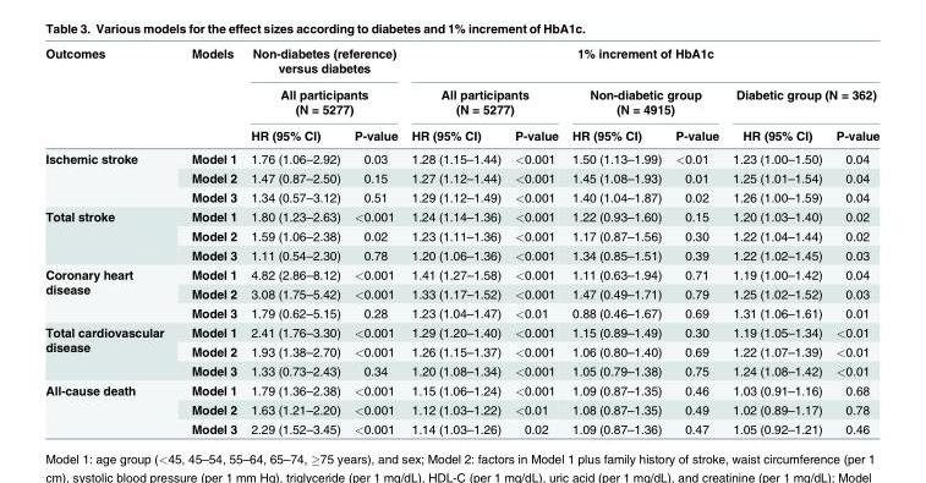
<table><thead><tr><td rowspan="3">Outcomes</td><td rowspan="3">Models</td><td rowspan="2" colspan="2">Non-diabetes (reference) versus diabetes All participants (N = 5277)</td><td colspan="6">1% increment of HbA1c</td></tr><tr><td colspan="2">All participants (N = 5277)</td><td colspan="2">Non-diabetic group (N = 4915)</td><td colspan="2">Diabetic group (N = 362)</td></tr><tr><td>HR (95% CI)</td><td>P-value</td><td>HR (95% CI)</td><td>P-value</td><td>HR (95% CI)</td><td>P-value</td><td>HR (95% CI)</td><td>P-value</td></tr></thead><tbody><tr><td rowspan="3">Ischemic stroke</td><td>Model 1</td><td>1.76 (1.06–2.92)</td><td>0.03</td><td>1.28 (1.15–1.44)</td><td>&lt;0.001</td><td>1.50 (1.13–1.99)</td><td>&lt;0.01</td><td>1.23 (1.00–1.50)</td><td>0.04</td></tr><tr><td>Model 2</td><td>1.47 (0.87–2.50)</td><td>0.15</td><td>1.27 (1.12–1.44)</td><td>&lt;0.001</td><td>1.45 (1.08–1.93)</td><td>0.01</td><td>1.25 (1.01–1.54)</td><td>0.04</td></tr><tr><td>Model 3</td><td>1.34 (0.57–3.12)</td><td>0.51</td><td>1.29 (1.12–1.49)</td><td>&lt;0.001</td><td>1.40 (1.04–1.87)</td><td>0.02</td><td>1.26 (1.00–1.59)</td><td>0.04</td></tr><tr><td rowspan="3">Total stroke</td><td>Model 1</td><td>1.80 (1.23–2.63)</td><td>&lt;0.001</td><td>1.24 (1.14–1.36)</td><td>&lt;0.001</td><td>1.22 (0.93–1.60)</td><td>0.15</td><td>1.20 (1.03–1.40)</td><td>0.02</td></tr><tr><td>Model 2</td><td>1.59 (1.06–2.38)</td><td>0.02</td><td>1.23 (1.11–1.36)</td><td>&lt;0.001</td><td>1.17 (0.87–1.56)</td><td>0.30</td><td>1.22 (1.04–1.44)</td><td>0.02</td></tr><tr><td>Model 3</td><td>1.11 (0.54–2.30)</td><td>0.78</td><td>1.20 (1.06–1.36)</td><td>&lt;0.001</td><td>1.34 (0.85–1.51)</td><td>0.39</td><td>1.22 (1.02–1.45)</td><td>0.03</td></tr><tr><td rowspan="3">Coronary heart disease</td><td>Model 1</td><td>4.82 (2.86–8.12)</td><td>&lt;0.001</td><td>1.41 (1.27–1.58)</td><td>&lt;0.001</td><td>1.11 (0.63–1.94)</td><td>0.71</td><td>1.19 (1.00–1.42)</td><td>0.04</td></tr><tr><td>Model 2</td><td>3.08 (1.75–5.42)</td><td>&lt;0.001</td><td>1.33 (1.17–1.52)</td><td>&lt;0.001</td><td>1.47 (0.49–1.71)</td><td>0.79</td><td>1.25 (1.02–1.52)</td><td>0.03</td></tr><tr><td>Model 3</td><td>1.79 (0.62–5.15)</td><td>0.28</td><td>1.23 (1.04–1.47)</td><td>&lt;0.01</td><td>0.88 (0.46–1.67)</td><td>0.69</td><td>1.31 (1.06–1.61)</td><td>0.01</td></tr><tr><td rowspan="3">Total cardiovascular disease</td><td>Model 1</td><td>2.41 (1.76–3.30)</td><td>&lt;0.001</td><td>1.29 (1.20–1.40)</td><td>&lt;0.001</td><td>1.15 (0.89–1.49)</td><td>0.30</td><td>1.19 (1.05–1.34)</td><td>&lt;0.01</td></tr><tr><td>Model 2</td><td>1.93 (1.38–2.70)</td><td>&lt;0.001</td><td>1.26 (1.15–1.37)</td><td>&lt;0.001</td><td>1.06 (0.80–1.40)</td><td>0.69</td><td>1.22 (1.07–1.39)</td><td>&lt;0.01</td></tr><tr><td>Model 3</td><td>1.33 (0.73–2.43)</td><td>0.34</td><td>1.20 (1.08–1.34)</td><td>&lt;0.001</td><td>1.05 (0.79–1.38)</td><td>0.75</td><td>1.24 (1.08–1.42)</td><td>&lt;0.01</td></tr><tr><td rowspan="3">All-cause death</td><td>Model 1</td><td>1.79 (1.36–2.38)</td><td>&lt;0.001</td><td>1.15 (1.06–1.24)</td><td>&lt;0.001</td><td>1.09 (0.87–1.35)</td><td>0.46</td><td>1.03 (0.91–1.16)</td><td>0.68</td></tr><tr><td>Model 2</td><td>1.63 (1.21–2.20)</td><td>&lt;0.001</td><td>1.12 (1.03–1.22)</td><td>&lt;0.01</td><td>1.08 (0.87–1.35)</td><td>0.49</td><td>1.02 (0.89–1.17)</td><td>0.78</td></tr><tr><td>Model 3</td><td>2.29 (1.52–3.45)</td><td>&lt;0.001</td><td>1.14 (1.03–1.26)</td><td>0.02</td><td>1.09 (0.87–1.36)</td><td>0.47</td><td>1.05 (0.92–1.21)</td><td>0.46</td></tr></tbody></table>